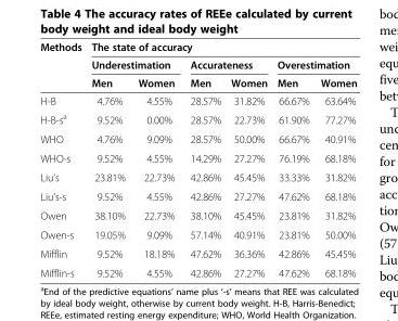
<table><thead><tr><td rowspan="3">Methods</td><td colspan="6">The state of accuracy</td></tr><tr><td colspan="2">Underestimation</td><td colspan="2">Accurateness</td><td colspan="2">Overestimation</td></tr><tr><td>Men</td><td>Women</td><td>Men</td><td>Women</td><td>Men</td><td>Women</td></tr></thead><tbody><tr><td>H-B</td><td>4.76%</td><td>4.55%</td><td>28.57%</td><td>31.82%</td><td>66.67%</td><td>63.64%</td></tr><tr><td>H-B-s<sup>a</sup></td><td>9.52%</td><td>0.00%</td><td>28.57%</td><td>22.73%</td><td>61.90%</td><td>77.27%</td></tr><tr><td>WHO</td><td>4.76%</td><td>9.09%</td><td>28.57%</td><td>50.00%</td><td>66.67%</td><td>40.91%</td></tr><tr><td>WHO-s</td><td>9.52%</td><td>4.55%</td><td>14.29%</td><td>27.27%</td><td>76.19%</td><td>68.18%</td></tr><tr><td>Liu’s</td><td>23.81%</td><td>22.73%</td><td>42.86%</td><td>45.45%</td><td>33.33%</td><td>31.82%</td></tr><tr><td>Liu’s-s</td><td>9.52%</td><td>4.55%</td><td>42.86%</td><td>27.27%</td><td>47.62%</td><td>68.18%</td></tr><tr><td>Owen</td><td>38.10%</td><td>22.73%</td><td>38.10%</td><td>45.45%</td><td>23.81%</td><td>31.82%</td></tr><tr><td>Owen-s</td><td>19.05%</td><td>9.09%</td><td>57.14%</td><td>40.91%</td><td>23.81%</td><td>50.00%</td></tr><tr><td>Mifflin</td><td>9.52%</td><td>18.18%</td><td>47.62%</td><td>36.36%</td><td>42.86%</td><td>45.45%</td></tr><tr><td>Mifflin-s</td><td>9.52%</td><td>4.55%</td><td>42.86%</td><td>27.27%</td><td>47.62%</td><td>68.18%</td></tr></tbody></table>